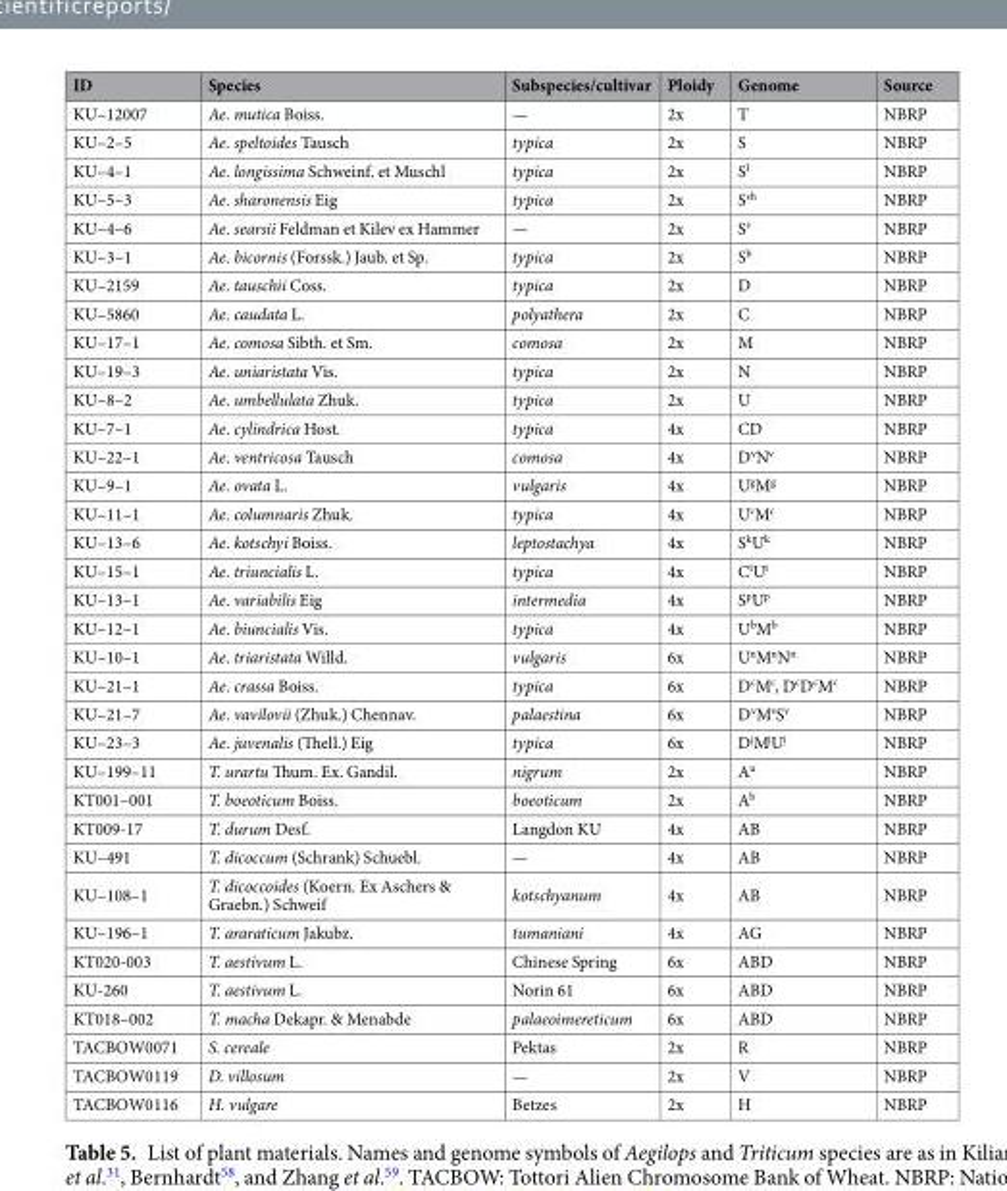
<table><thead><tr><td>ID</td><td>Species</td><td>Subspecies/cultivar</td><td>Ploidy</td><td>Genome</td><td>Source</td></tr></thead><tbody><tr><td>KU–12007</td><td>Ae. mutica Boiss.</td><td>—</td><td>2x</td><td>T</td><td>NBRP</td></tr><tr><td>KU–2–5</td><td>Ae. speltoides Tausch</td><td>typica</td><td>2x</td><td>S</td><td>NBRP</td></tr><tr><td>KU–4–1</td><td>Ae. longissima Schweinf. et Muschl</td><td>typica</td><td>2x</td><td>S<sup>l</sup></td><td>NBRP</td></tr><tr><td>KU–5–3</td><td>Ae. sharonensis Eig</td><td>typica</td><td>2x</td><td>S<sup>sh</sup></td><td>NBRP</td></tr><tr><td>KU–4–6</td><td>Ae. searsii Feldman et Kilev ex Hammer</td><td>—</td><td>2x</td><td>S<sup>s</sup></td><td>NBRP</td></tr><tr><td>KU–3–1</td><td>Ae. bicornis (Forssk.) Jaub. et Sp.</td><td>typica</td><td>2x</td><td>S<sup>b</sup></td><td>NBRP</td></tr><tr><td>KU–2159</td><td>Ae. tauschii Coss.</td><td>typica</td><td>2x</td><td>D</td><td>NBRP</td></tr><tr><td>KU–5860</td><td>Ae. caudata L.</td><td>polyathera</td><td>2x</td><td>C</td><td>NBRP</td></tr><tr><td>KU–17–1</td><td>Ae. comosa Sibth. et Sm.</td><td>comosa</td><td>2x</td><td>M</td><td>NBRP</td></tr><tr><td>KU–19–3</td><td>Ae. uniaristata Vis.</td><td>typica</td><td>2x</td><td>N</td><td>NBRP</td></tr><tr><td>KU–8–2</td><td>Ae. umbellulata Zhuk.</td><td>typica</td><td>2x</td><td>U</td><td>NBRP</td></tr><tr><td>KU–7–1</td><td>Ae. cylindrica Host.</td><td>typica</td><td>4x</td><td>CD</td><td>NBRP</td></tr><tr><td>KU–22–1</td><td>Ae. ventricosa Tausch</td><td>comosa</td><td>4x</td><td>D<sup>v</sup>N<sup>v</sup></td><td>NBRP</td></tr><tr><td>KU–9–1</td><td>Ae. ovata L.</td><td>vulgaris</td><td>4x</td><td>U<sup>g</sup>M<sup>g</sup></td><td>NBRP</td></tr><tr><td>KU–11–1</td><td>Ae. columnaris Zhuk.</td><td>typica</td><td>4x</td><td>U<sup>c</sup>M<sup>c</sup></td><td>NBRP</td></tr><tr><td>KU–13–6</td><td>Ae. kotschyi Boiss.</td><td>leptostachya</td><td>4x</td><td>S<sup>k</sup>U<sup>k</sup></td><td>NBRP</td></tr><tr><td>KU–15–1</td><td>Ae. triuncialis L.</td><td>typica</td><td>4x</td><td>C<sup>t</sup>U<sup>t</sup></td><td>NBRP</td></tr><tr><td>KU–13–1</td><td>Ae. variabilis Eig</td><td>intermedia</td><td>4x</td><td>S<sup>p</sup>U<sup>p</sup></td><td>NBRP</td></tr><tr><td>KU–12–1</td><td>Ae. biuncialis Vis.</td><td>typica</td><td>4x</td><td>U<sup>b</sup>M<sup>b</sup></td><td>NBRP</td></tr><tr><td>KU–10–1</td><td>Ae. triaristata Willd.</td><td>vulgaris</td><td>6x</td><td>U<sup>n</sup>M<sup>n</sup>N<sup>n</sup></td><td>NBRP</td></tr><tr><td>KU–21–1</td><td>Ae. crassa Boiss.</td><td>typica</td><td>6x</td><td>D<sup>c</sup>M<sup>c</sup>, D<sup>c</sup>D<sup>c</sup>M<sup>c</sup></td><td>NBRP</td></tr><tr><td>KU–21–7</td><td>Ae. vavilovii (Zhuk.) Chennav.</td><td>palaestina</td><td>6x</td><td>D<sup>v</sup>M<sup>v</sup>S<sup>v</sup></td><td>NBRP</td></tr><tr><td>KU–23–3</td><td>Ae. juvenalis (Thell.) Eig</td><td>typica</td><td>6x</td><td>D<sup>j</sup>M<sup>j</sup>U<sup>j</sup></td><td>NBRP</td></tr><tr><td>KU–199–11</td><td>T. urartu Thum. Ex. Gandil.</td><td>nigrum</td><td>2x</td><td>A<sup>u</sup></td><td>NBRP</td></tr><tr><td>KT001–001</td><td>T. boeoticum Boiss.</td><td>boeoticum</td><td>2x</td><td>A<sup>b</sup></td><td>NBRP</td></tr><tr><td>KT009-17</td><td>T. durum Desf.</td><td>Langdon KU</td><td>4x</td><td>AB</td><td>NBRP</td></tr><tr><td>KU–491</td><td>T. dicoccum (Schrank) Schuebl.</td><td>—</td><td>4x</td><td>AB</td><td>NBRP</td></tr><tr><td>KU–108–1</td><td>T. dicoccoides (Koern. Ex Aschers &amp; Graebn.) Schweif</td><td>kotschyanum</td><td>4x</td><td>AB</td><td>NBRP</td></tr><tr><td>KU–196–1</td><td>T. araraticum Jakubz.</td><td>tumaniani</td><td>4x</td><td>AG</td><td>NBRP</td></tr><tr><td>KT020-003</td><td>T. aestivum L.</td><td>Chinese Spring</td><td>6x</td><td>ABD</td><td>NBRP</td></tr><tr><td>KU-260</td><td>T. aestivum L.</td><td>Norin 61</td><td>6x</td><td>ABD</td><td>NBRP</td></tr><tr><td>KT018–002</td><td>T. macha Dekapr. &amp; Menabde</td><td>palaeoimereticum</td><td>6x</td><td>ABD</td><td>NBRP</td></tr><tr><td>TACBOW0071</td><td>S. cereale</td><td>Pektas</td><td>2x</td><td>R</td><td>NBRP</td></tr><tr><td>TACBOW0119</td><td>D. villosum</td><td>—</td><td>2x</td><td>V</td><td>NBRP</td></tr><tr><td>TACBOW0116</td><td>H. vulgare</td><td>Betzes</td><td>2x</td><td>H</td><td>NBRP</td></tr></tbody></table>